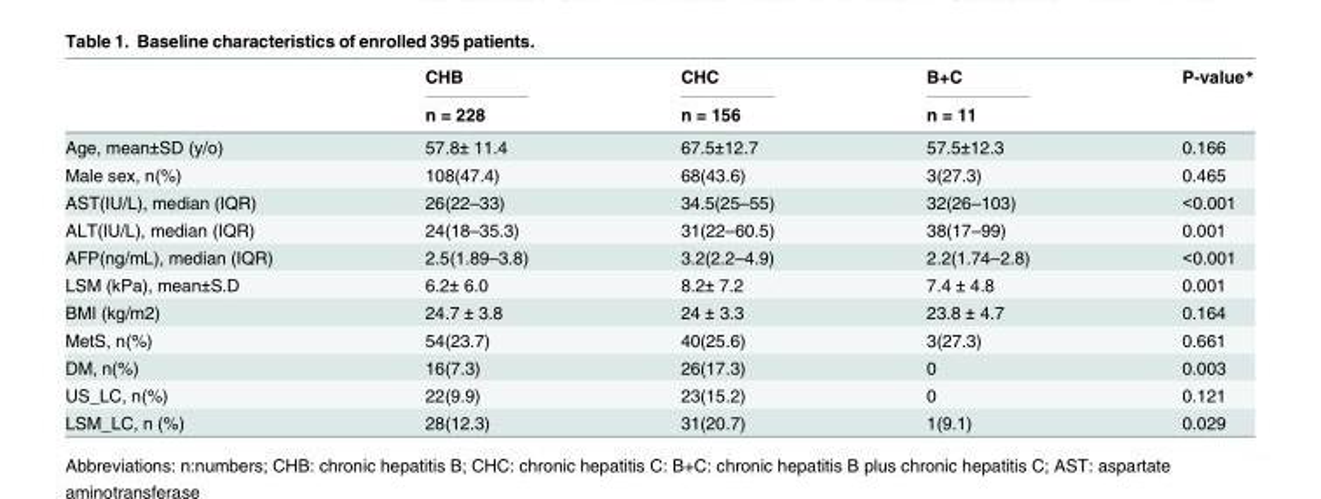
<table><thead><tr><td rowspan="2"></td><td rowspan="2">CHB n = 228</td><td rowspan="2">CHC n = 156</td><td rowspan="2">B+C n = 11</td><td rowspan="2">P-value*</td></tr><tr></tr></thead><tbody><tr><td>Age, mean±SD (y/o)</td><td>57.8± 11.4</td><td>67.5±12.7</td><td>57.5±12.3</td><td>0.166</td></tr><tr><td>Male sex, n(%)</td><td>108(47.4)</td><td>68(43.6)</td><td>3(27.3)</td><td>0.465</td></tr><tr><td>AST(IU/L), median (IQR)</td><td>26(22–33)</td><td>34.5(25–55)</td><td>32(26–103)</td><td>&lt;0.001</td></tr><tr><td>ALT(IU/L), median (IQR)</td><td>24(18–35.3)</td><td>31(22–60.5)</td><td>38(17–99)</td><td>0.001</td></tr><tr><td>AFP(ng/mL), median (IQR)</td><td>2.5(1.89–3.8)</td><td>3.2(2.2–4.9)</td><td>2.2(1.74–2.8)</td><td>&lt;0.001</td></tr><tr><td>LSM (kPa), mean±S.D</td><td>6.2± 6.0</td><td>8.2± 7.2</td><td>7.4 ± 4.8</td><td>0.001</td></tr><tr><td>BMI (kg/m2)</td><td>24.7 ± 3.8</td><td>24 ± 3.3</td><td>23.8 ± 4.7</td><td>0.164</td></tr><tr><td>MetS, n(%)</td><td>54(23.7)</td><td>40(25.6)</td><td>3(27.3)</td><td>0.661</td></tr><tr><td>DM, n(%)</td><td>16(7.3)</td><td>26(17.3)</td><td>0</td><td>0.003</td></tr><tr><td>US_LC, n(%)</td><td>22(9.9)</td><td>23(15.2)</td><td>0</td><td>0.121</td></tr><tr><td>LSM_LC, n (%)</td><td>28(12.3)</td><td>31(20.7)</td><td>1(9.1)</td><td>0.029</td></tr></tbody></table>